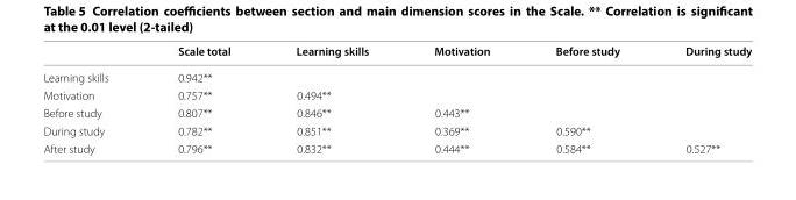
<table><thead><tr><td></td><td>Scale total</td><td>Learning skills</td><td>Motivation</td><td>Before study</td><td>During study</td></tr></thead><tbody><tr><td>Learning skills</td><td>0.942**</td><td></td><td></td><td></td><td></td></tr><tr><td>Motivation</td><td>0.757**</td><td>0.494**</td><td></td><td></td><td></td></tr><tr><td>Before study</td><td>0.807**</td><td>0.846**</td><td>0.443**</td><td></td><td></td></tr><tr><td>During study</td><td>0.782**</td><td>0.851**</td><td>0.369**</td><td>0.590**</td><td></td></tr><tr><td>After study</td><td>0.796**</td><td>0.832**</td><td>0.444**</td><td>0.584**</td><td>0.527**</td></tr></tbody></table>